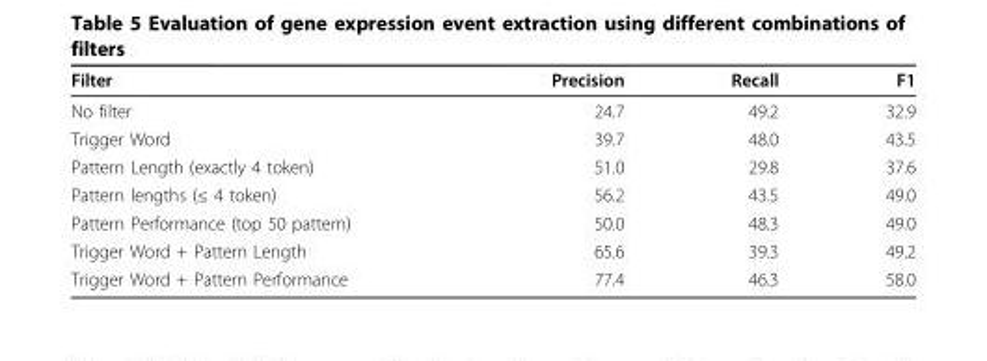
<table><thead><tr><td>Filter</td><td>Precision</td><td>Recall</td><td>F1</td></tr></thead><tbody><tr><td>No filter</td><td>24.7</td><td>49.2</td><td>32.9</td></tr><tr><td>Trigger Word</td><td>39.7</td><td>48.0</td><td>43.5</td></tr><tr><td>Pattern Length (exactly 4 token)</td><td>51.0</td><td>29.8</td><td>37.6</td></tr><tr><td>Pattern lengths (≤ 4 token)</td><td>56.2</td><td>43.5</td><td>49.0</td></tr><tr><td>Pattern Performance (top 50 pattern)</td><td>50.0</td><td>48.3</td><td>49.0</td></tr><tr><td>Trigger Word + Pattern Length</td><td>65.6</td><td>39.3</td><td>49.2</td></tr><tr><td>Trigger Word + Pattern Performance</td><td>77.4</td><td>46.3</td><td>58.0</td></tr></tbody></table>